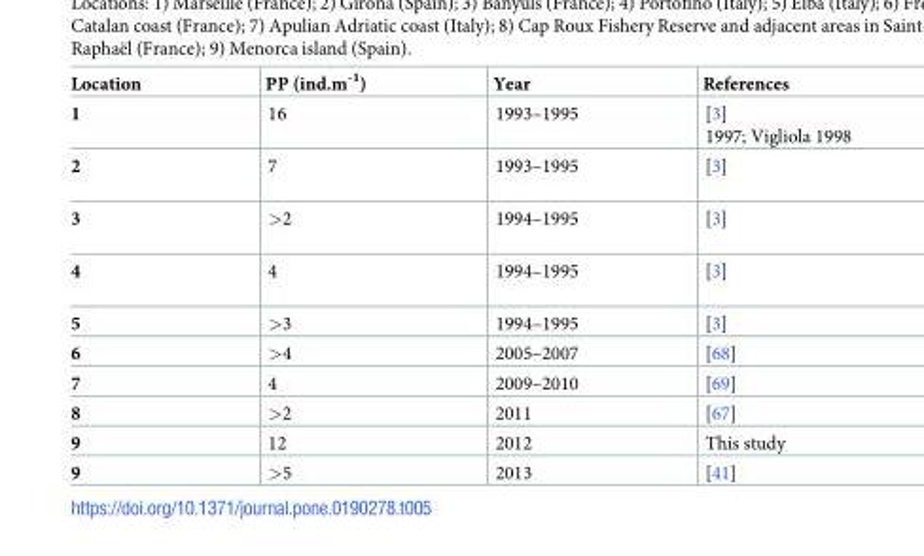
<table><thead><tr><td>Location</td><td>PP (ind.m<sup>-1</sup>)</td><td>Year</td><td>References</td></tr></thead><tbody><tr><td>1</td><td>16</td><td>1993–1995</td><td>[3] 1997; Vigliola 1998</td></tr><tr><td>2</td><td>7</td><td>1993–1995</td><td>[3]</td></tr><tr><td>3</td><td>&gt;2</td><td>1994–1995</td><td>[3]</td></tr><tr><td>4</td><td>4</td><td>1994–1995</td><td>[3]</td></tr><tr><td>5</td><td>&gt;3</td><td>1994–1995</td><td>[3]</td></tr><tr><td>6</td><td>&gt;4</td><td>2005–2007</td><td>[68]</td></tr><tr><td>7</td><td>4</td><td>2009–2010</td><td>[69]</td></tr><tr><td>8</td><td>&gt;2</td><td>2011</td><td>[67]</td></tr><tr><td>9</td><td>12</td><td>2012</td><td>This study</td></tr><tr><td>9</td><td>&gt;5</td><td>2013</td><td>[41]</td></tr></tbody></table>